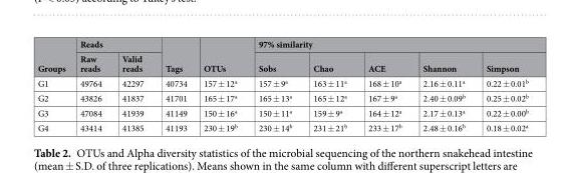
<table><thead><tr><td rowspan="2">Groups</td><td colspan="2">Reads</td><td rowspan="2">Tags</td><td rowspan="2">OTUs</td><td colspan="5">97% similarity</td></tr><tr><td>Raw reads</td><td>Valid reads</td><td>Sobs</td><td>Chao</td><td>ACE</td><td>Shannon</td><td>Simpson</td></tr></thead><tbody><tr><td>G1</td><td>49764</td><td>42297</td><td>40734</td><td>157 ± 12<sup>a</sup></td><td>157 ± 9<sup>a</sup></td><td>163 ± 11<sup>a</sup></td><td>168 ± 10<sup>a</sup></td><td>2.16 ± 0.11<sup>a</sup></td><td>0.22 ± 0.01<sup>b</sup></td></tr><tr><td>G2</td><td>43826</td><td>41837</td><td>41701</td><td>165 ± 17<sup>a</sup></td><td>165 ± 13<sup>a</sup></td><td>165 ± 12<sup>a</sup></td><td>167 ± 9<sup>a</sup></td><td>2.40 ± 0.09<sup>b</sup></td><td>0.25 ± 0.02<sup>b</sup></td></tr><tr><td>G3</td><td>47084</td><td>41939</td><td>41149</td><td>150 ± 16<sup>a</sup></td><td>150 ± 11<sup>a</sup></td><td>159 ± 9<sup>a</sup></td><td>164 ± 12<sup>a</sup></td><td>2.17 ± 0.13<sup>a</sup></td><td>0.22 ± 0.00<sup>b</sup></td></tr><tr><td>G4</td><td>43414</td><td>41385</td><td>41193</td><td>230 ± 19<sup>b</sup></td><td>230 ± 14<sup>b</sup></td><td>231 ± 21<sup>b</sup></td><td>233 ± 17<sup>b</sup></td><td>2.48 ± 0.16<sup>b</sup></td><td>0.18 ± 0.02<sup>a</sup></td></tr></tbody></table>